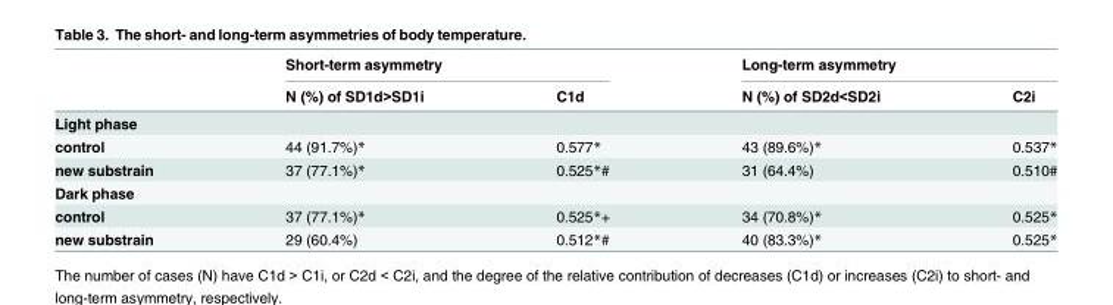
<table><thead><tr><td rowspan="2"></td><td colspan="2">Short-term asymmetry</td><td colspan="2">Long-term asymmetry</td></tr><tr><td>N (%) of SD1d&gt;SD1i</td><td>C1d</td><td>N (%) of SD2d&lt;SD2i</td><td>C2i</td></tr></thead><tbody><tr><td colspan="5">Light phase</td></tr><tr><td>control</td><td>44 (91.7%)*</td><td>0.577*</td><td>43 (89.6%)*</td><td>0.537*</td></tr><tr><td>new substrain</td><td>37 (77.1%)*</td><td>0.525*#</td><td>31 (64.4%)</td><td>0.510#</td></tr><tr><td colspan="5">Dark phase</td></tr><tr><td>control</td><td>37 (77.1%)*</td><td>0.525*+</td><td>34 (70.8%)*</td><td>0.525*</td></tr><tr><td>new substrain</td><td>29 (60.4%)</td><td>0.512*#</td><td>40 (83.3%)*</td><td>0.525*</td></tr></tbody></table>